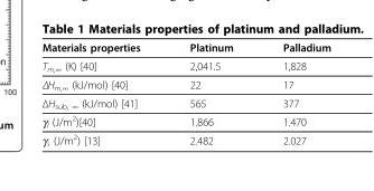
<table><thead><tr><td>Materials properties</td><td>Platinum</td><td>Palladium</td></tr></thead><tbody><tr><td>T<sub>m,∞</sub> (K) [40]</td><td>2,041.5</td><td>1,828</td></tr><tr><td>ΔH<sub>m,∞</sub> (kJ/mol) [40]</td><td>22</td><td>17</td></tr><tr><td>ΔH<sub>sub, ∞</sub> (kJ/mol) [41]</td><td>565</td><td>377</td></tr><tr><td>γ<sub>l</sub> (J/m<sup>2</sup>)[40]</td><td>1.866</td><td>1.470</td></tr><tr><td>γ<sub>s</sub> (J/m<sup>2</sup>) [13]</td><td>2.482</td><td>2.027</td></tr></tbody></table>